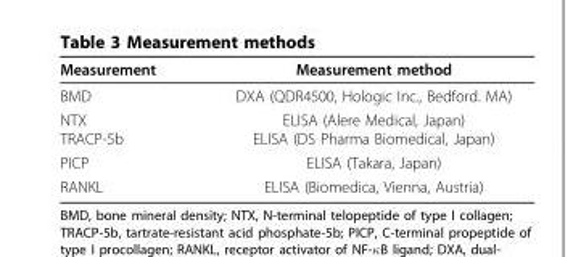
<table><thead><tr><td>Measurement</td><td>Measurement method</td></tr></thead><tbody><tr><td>BMD</td><td>DXA (QDR4500, Hologic Inc., Bedford. MA)</td></tr><tr><td>NTX TRACP-5b</td><td>ELISA (Alere Medical, Japan) ELISA (DS Pharma Biomedical, Japan)</td></tr><tr><td>PICP</td><td>ELISA (Takara, Japan)</td></tr><tr><td>RANKL</td><td>ELISA (Biomedica, Vienna, Austria)</td></tr></tbody></table>